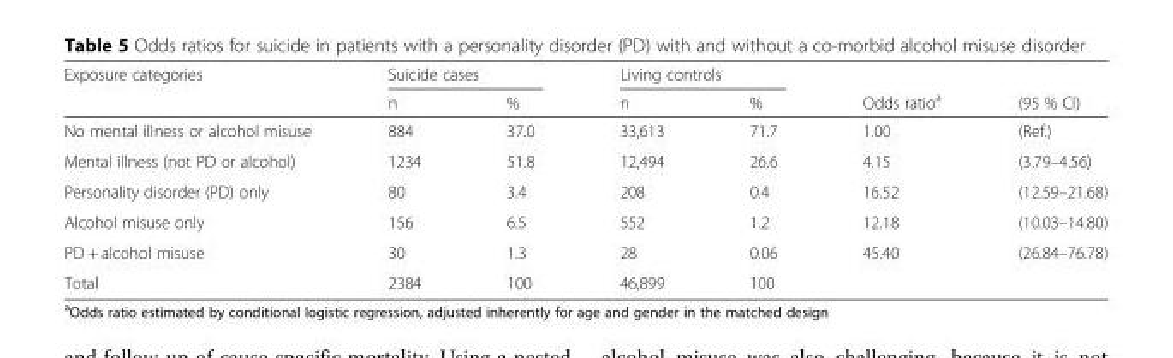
<table><thead><tr><td rowspan="2">Exposure categories</td><td colspan="2">Suicide cases</td><td colspan="2">Living controls</td><td rowspan="2">Odds ratio<sup>a</sup></td><td rowspan="2">(95 % CI)</td></tr><tr><td>n</td><td>%</td><td>n</td><td>%</td></tr></thead><tbody><tr><td>No mental illness or alcohol misuse</td><td>884</td><td>37.0</td><td>33,613</td><td>71.7</td><td>1.00</td><td>(Ref.)</td></tr><tr><td>Mental illness (not PD or alcohol)</td><td>1234</td><td>51.8</td><td>12,494</td><td>26.6</td><td>4.15</td><td>(3.79–4.56)</td></tr><tr><td>Personality disorder (PD) only</td><td>80</td><td>3.4</td><td>208</td><td>0.4</td><td>16.52</td><td>(12.59–21.68)</td></tr><tr><td>Alcohol misuse only</td><td>156</td><td>6.5</td><td>552</td><td>1.2</td><td>12.18</td><td>(10.03–14.80)</td></tr><tr><td>PD + alcohol misuse</td><td>30</td><td>1.3</td><td>28</td><td>0.06</td><td>45.40</td><td>(26.84–76.78)</td></tr><tr><td>Total</td><td>2384</td><td>100</td><td>46,899</td><td>100</td><td></td><td></td></tr></tbody></table>